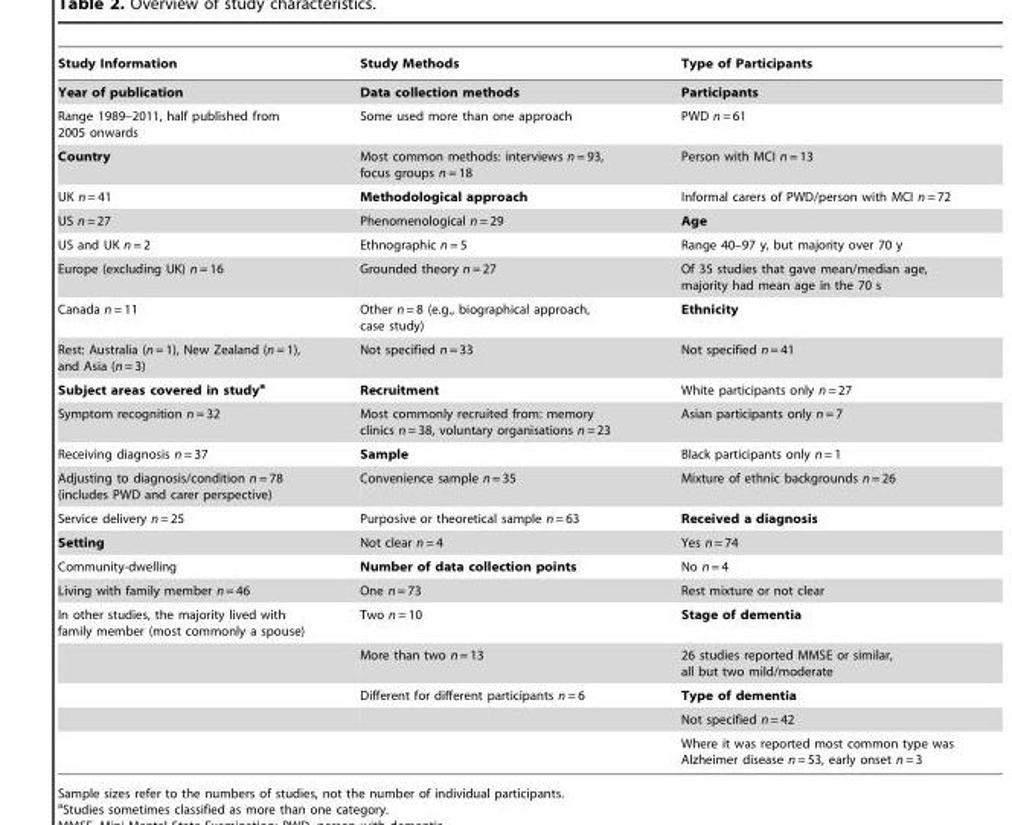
<table><thead><tr><td>Study Information</td><td>Study Methods</td><td>Type of Participants</td></tr></thead><tbody><tr><td>Year of publication</td><td>Data collection methods</td><td>Participants</td></tr><tr><td>Range 1989–2011, half published from 2005 onwards</td><td>Some used more than one approach</td><td>PWD n = 61</td></tr><tr><td>Country</td><td>Most common methods: interviews n = 93, focus groups n = 18</td><td>Person with MCI n = 13</td></tr><tr><td>UK n = 41</td><td>Methodological approach</td><td>Informal carers of PWD/person with MCI n = 72</td></tr><tr><td>US n = 27</td><td>Phenomenological n = 29</td><td>Age</td></tr><tr><td>US and UK n = 2</td><td>Ethnographic n = 5</td><td>Range 40–97 y, but majority over 70 y</td></tr><tr><td>Europe (excluding UK) n = 16</td><td>Grounded theory n = 27</td><td>Of 35 studies that gave mean/median age, majority had mean age in the 70 s</td></tr><tr><td>Canada n = 11</td><td>Other n = 8 (e.g., biographical approach, case study)</td><td>Ethnicity</td></tr><tr><td>Rest: Australia (n = 1), New Zealand (n = 1), and Asia (n = 3)</td><td>Not specified n = 33</td><td>Not specified n = 41</td></tr><tr><td>Subject areas covered in studya</td><td>Recruitment</td><td>White participants only n = 27</td></tr><tr><td>Symptom recognition n = 32</td><td>Most commonly recruited from: memory clinics n = 38, voluntary organisations n = 23</td><td>Asian participants only n = 7</td></tr><tr><td>Receiving diagnosis n = 37</td><td>Sample</td><td>Black participants only n = 1</td></tr><tr><td>Adjusting to diagnosis/condition n = 78 (includes PWD and carer perspective)</td><td>Convenience sample n = 35</td><td>Mixture of ethnic backgrounds n = 26</td></tr><tr><td>Service delivery n = 25</td><td>Purposive or theoretical sample n = 63</td><td>Received a diagnosis</td></tr><tr><td>Setting</td><td>Not clear n = 4</td><td>Yes n = 74</td></tr><tr><td>Community-dwelling</td><td>Number of data collection points</td><td>No n = 4</td></tr><tr><td>Living with family member n = 46</td><td>One n = 73</td><td>Rest mixture or not clear</td></tr><tr><td rowspan="5">In other studies, the majority lived with family member (most commonly a spouse)</td><td>Two n = 10</td><td>Stage of dementia</td></tr><tr><td>More than two n = 13</td><td>26 studies reported MMSE or similar, all but two mild/moderate</td></tr><tr><td>Different for different participants n = 6</td><td>Type of dementia</td></tr><tr><td></td><td>Not specified n = 42</td></tr><tr><td></td><td>Where it was reported most common type was Alzheimer disease n = 53, early onset n = 3</td></tr></tbody></table>